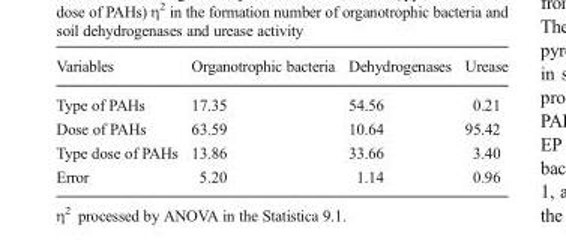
<table><thead><tr><td>Variables</td><td>Organotrophic bacteria</td><td>Dehydrogenases</td><td>Urease</td></tr></thead><tbody><tr><td>Type of PAHs</td><td>17.35</td><td>54.56</td><td>0.21</td></tr><tr><td>Dose of PAHs</td><td>63.59</td><td>10.64</td><td>95.42</td></tr><tr><td>Type dose of PAHs</td><td>13.86</td><td>33.66</td><td>3.40</td></tr><tr><td>Error</td><td>5.20</td><td>1.14</td><td>0.96</td></tr></tbody></table>